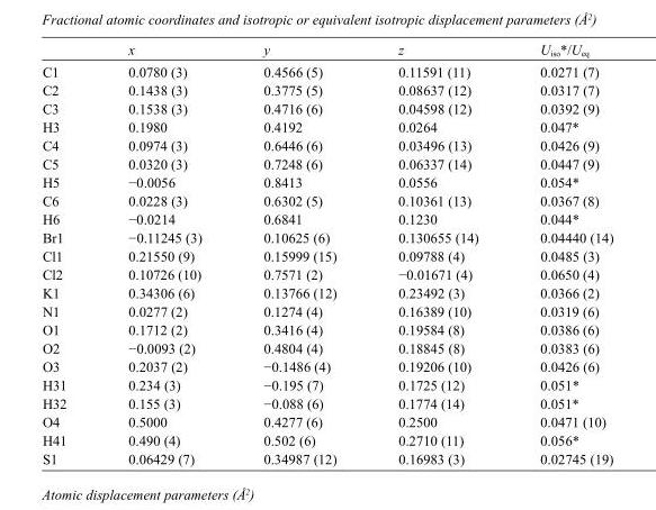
<table><thead><tr><td></td><td>x</td><td>y</td><td>z</td><td>U<sub>iso</sub>*/U<sub>eq</sub></td></tr></thead><tbody><tr><td>C1</td><td>0.0780 (3)</td><td>0.4566 (5)</td><td>0.11591 (11)</td><td>0.0271 (7)</td></tr><tr><td>C2</td><td>0.1438 (3)</td><td>0.3775 (5)</td><td>0.08637 (12)</td><td>0.0317 (7)</td></tr><tr><td>C3</td><td>0.1538 (3)</td><td>0.4716 (6)</td><td>0.04598 (12)</td><td>0.0392 (9)</td></tr><tr><td>H3</td><td>0.1980</td><td>0.4192</td><td>0.0264</td><td>0.047*</td></tr><tr><td>C4</td><td>0.0974 (3)</td><td>0.6446 (6)</td><td>0.03496 (13)</td><td>0.0426 (9)</td></tr><tr><td>C5</td><td>0.0320 (3)</td><td>0.7248 (6)</td><td>0.06337 (14)</td><td>0.0447 (9)</td></tr><tr><td>H5</td><td>−0.0056</td><td>0.8413</td><td>0.0556</td><td>0.054*</td></tr><tr><td>C6</td><td>0.0228 (3)</td><td>0.6302 (5)</td><td>0.10361 (13)</td><td>0.0367 (8)</td></tr><tr><td>H6</td><td>−0.0214</td><td>0.6841</td><td>0.1230</td><td>0.044*</td></tr><tr><td>Br1</td><td>−0.11245 (3)</td><td>0.10625 (6)</td><td>0.130655 (14)</td><td>0.04440 (14)</td></tr><tr><td>Cl1</td><td>0.21550 (9)</td><td>0.15999 (15)</td><td>0.09788 (4)</td><td>0.0485 (3)</td></tr><tr><td>Cl2</td><td>0.10726 (10)</td><td>0.7571 (2)</td><td>−0.01671 (4)</td><td>0.0650 (4)</td></tr><tr><td>K1</td><td>0.34306 (6)</td><td>0.13766 (12)</td><td>0.23492 (3)</td><td>0.0366 (2)</td></tr><tr><td>N1</td><td>0.0277 (2)</td><td>0.1274 (4)</td><td>0.16389 (10)</td><td>0.0319 (6)</td></tr><tr><td>O1</td><td>0.1712 (2)</td><td>0.3416 (4)</td><td>0.19584 (8)</td><td>0.0386 (6)</td></tr><tr><td>O2</td><td>−0.0093 (2)</td><td>0.4804 (4)</td><td>0.18845 (8)</td><td>0.0383 (6)</td></tr><tr><td>O3</td><td>0.2037 (2)</td><td>−0.1486 (4)</td><td>0.19206 (10)</td><td>0.0426 (6)</td></tr><tr><td>H31</td><td>0.234 (3)</td><td>−0.195 (7)</td><td>0.1725 (12)</td><td>0.051*</td></tr><tr><td>H32</td><td>0.155 (3)</td><td>−0.088 (6)</td><td>0.1774 (14)</td><td>0.051*</td></tr><tr><td>O4</td><td>0.5000</td><td>0.4277 (6)</td><td>0.2500</td><td>0.0471 (10)</td></tr><tr><td>H41</td><td>0.490 (4)</td><td>0.502 (6)</td><td>0.2710 (11)</td><td>0.056*</td></tr><tr><td>S1</td><td>0.06429 (7)</td><td>0.34987 (12)</td><td>0.16983 (3)</td><td>0.02745 (19)</td></tr></tbody></table>